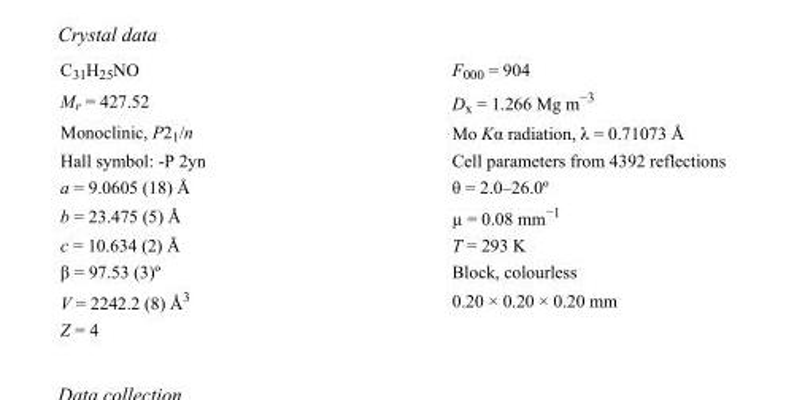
<table><tbody><tr><td>C<sub>31</sub>H<sub>25</sub>NO</td><td>F000 = 904</td></tr><tr><td>M<sub>r</sub> = 427.52</td><td>D<sub>x</sub> = 1.266 Mg m<sup>−3</sup></td></tr><tr><td>Monoclinic, P2<sub>1</sub>/n</td><td>Mo Kα radiation, λ = 0.71073 Å</td></tr><tr><td>Hall symbol: -P 2yn</td><td>Cell parameters from 4392 reflections</td></tr><tr><td>a = 9.0605 (18) Å</td><td>θ = 2.0–26.0º</td></tr><tr><td>b = 23.475 (5) Å</td><td>µ = 0.08 mm<sup>−1</sup></td></tr><tr><td>c = 10.634 (2) Å</td><td>T = 293 K</td></tr><tr><td>β = 97.53 (3)º</td><td>Block, colourless</td></tr><tr><td>V = 2242.2 (8) Å<sup>3</sup></td><td>0.20 × 0.20 × 0.20 mm</td></tr><tr><td>Z = 4</td><td></td></tr></tbody></table>